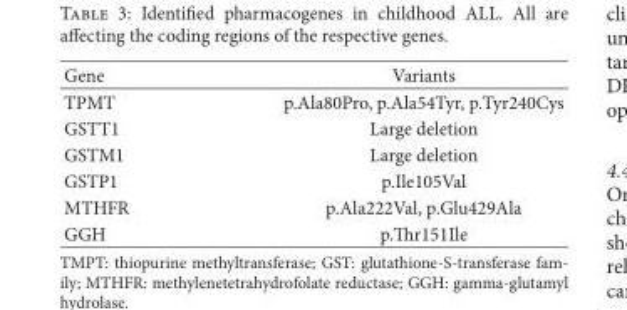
<table><thead><tr><td>Gene</td><td>Variants</td></tr></thead><tbody><tr><td>TPMT</td><td>p.Ala80Pro, p.Ala54Tyr, p.Tyr240Cys</td></tr><tr><td>GSTT1</td><td>Large deletion</td></tr><tr><td>GSTM1</td><td>Large deletion</td></tr><tr><td>GSTP1</td><td>p.Ile105Val</td></tr><tr><td>MTHFR</td><td>p.Ala222Val, p.Glu429Ala</td></tr><tr><td>GGH</td><td>p.r151Ile</td></tr></tbody></table>